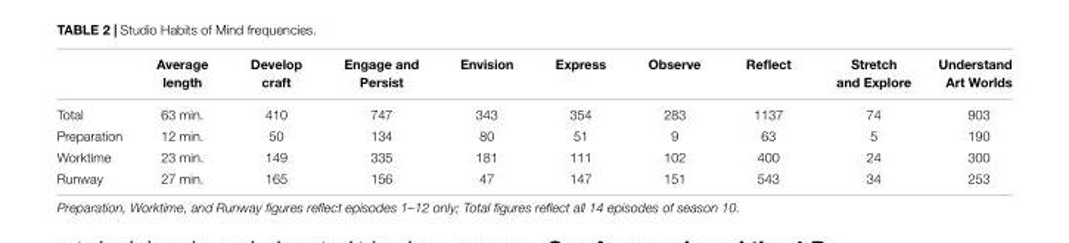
<table><thead><tr><td></td><td>Average length</td><td>Develop craft</td><td>Engage and Persist</td><td>Envision</td><td>Express</td><td>Observe</td><td>Reflect</td><td>Stretch and Explore</td><td>Understand Art Worlds</td></tr></thead><tbody><tr><td>Total</td><td>63 min.</td><td>410</td><td>747</td><td>343</td><td>354</td><td>283</td><td>1137</td><td>74</td><td>903</td></tr><tr><td>Preparation</td><td>12 min.</td><td>50</td><td>134</td><td>80</td><td>51</td><td>9</td><td>63</td><td>5</td><td>190</td></tr><tr><td>Worktime</td><td>23 min.</td><td>149</td><td>335</td><td>181</td><td>111</td><td>102</td><td>400</td><td>24</td><td>300</td></tr><tr><td>Runway</td><td>27 min.</td><td>165</td><td>156</td><td>47</td><td>147</td><td>151</td><td>543</td><td>34</td><td>253</td></tr></tbody></table>